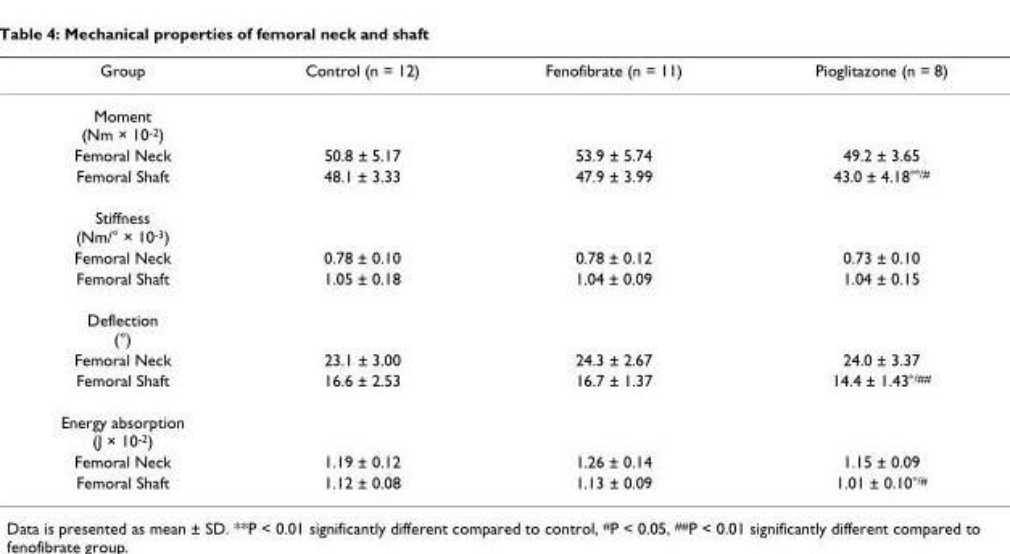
<table><thead><tr><td>Group</td><td>Control (n = 12)</td><td>Fenofibrate (n = 11)</td><td>Pioglitazone (n = 8)</td></tr></thead><tbody><tr><td colspan="4">Moment (Nm × 10<sup>-2</sup>)</td></tr><tr><td>Femoral Neck</td><td>50.8 ± 5.17</td><td>53.9 ± 5.74</td><td>49.2 ± 3.65</td></tr><tr><td>Femoral Shaft</td><td>48.1 ± 3.33</td><td>47.9 ± 3.99</td><td>43.0 ± 4.18<sup>**/#</sup></td></tr><tr><td colspan="4">Stiffness (Nm/° × 10<sup>-3</sup>)</td></tr><tr><td>Femoral Neck</td><td>0.78 ± 0.10</td><td>0.78 ± 0.12</td><td>0.73 ± 0.10</td></tr><tr><td>Femoral Shaft</td><td>1.05 ± 0.18</td><td>1.04 ± 0.09</td><td>1.04 ± 0.15</td></tr><tr><td colspan="4">Deflection (°)</td></tr><tr><td>Femoral Neck</td><td>23.1 ± 3.00</td><td>24.3 ± 2.67</td><td>24.0 ± 3.37</td></tr><tr><td>Femoral Shaft</td><td>16.6 ± 2.53</td><td>16.7 ± 1.37</td><td>14.4 ± 1.43<sup>*/##</sup></td></tr><tr><td colspan="4">Energy absorption (J × 10<sup>-2</sup>)</td></tr><tr><td>Femoral Neck</td><td>1.19 ± 0.12</td><td>1.26 ± 0.14</td><td>1.15 ± 0.09</td></tr><tr><td>Femoral Shaft</td><td>1.12 ± 0.08</td><td>1.13 ± 0.09</td><td>1.01 ± 0.10<sup>*/#</sup></td></tr></tbody></table>